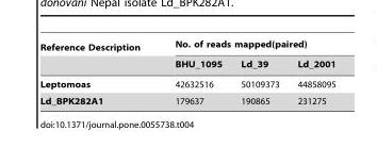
<table><thead><tr><td rowspan="2">Reference Description</td><td colspan="3">No. of reads mapped(paired)</td></tr><tr><td>BHU_1095</td><td>Ld_39</td><td>Ld_2001</td></tr></thead><tbody><tr><td>Leptomoas</td><td>42632516</td><td>50109373</td><td>44858095</td></tr><tr><td>Ld_BPK282A1</td><td>179637</td><td>190865</td><td>231275</td></tr></tbody></table>